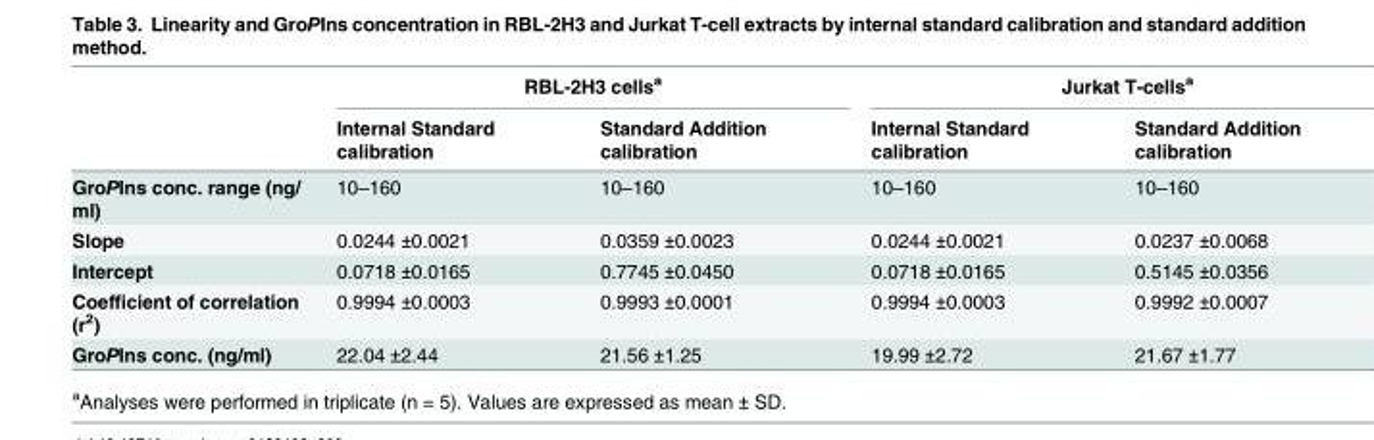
<table><thead><tr><td rowspan="2"></td><td colspan="2">RBL-2H3 cells<sup>a</sup></td><td colspan="2">Jurkat T-cells<sup>a</sup></td></tr><tr><td>Internal Standard calibration</td><td>Standard Addition calibration</td><td>Internal Standard calibration</td><td>Standard Addition calibration</td></tr></thead><tbody><tr><td>GroPIns conc. range (ng/ ml)</td><td>10–160</td><td>10–160</td><td>10–160</td><td>10–160</td></tr><tr><td>Slope</td><td>0.0244 ±0.0021</td><td>0.0359 ±0.0023</td><td>0.0244 ±0.0021</td><td>0.0237 ±0.0068</td></tr><tr><td>Intercept</td><td>0.0718 ±0.0165</td><td>0.7745 ±0.0450</td><td>0.0718 ±0.0165</td><td>0.5145 ±0.0356</td></tr><tr><td>Coefficient of correlation (r<sup>2</sup>)</td><td>0.9994 ±0.0003</td><td>0.9993 ±0.0001</td><td>0.9994 ±0.0003</td><td>0.9992 ±0.0007</td></tr><tr><td>GroPIns conc. (ng/ml)</td><td>22.04 ±2.44</td><td>21.56 ±1.25</td><td>19.99 ±2.72</td><td>21.67 ±1.77</td></tr></tbody></table>